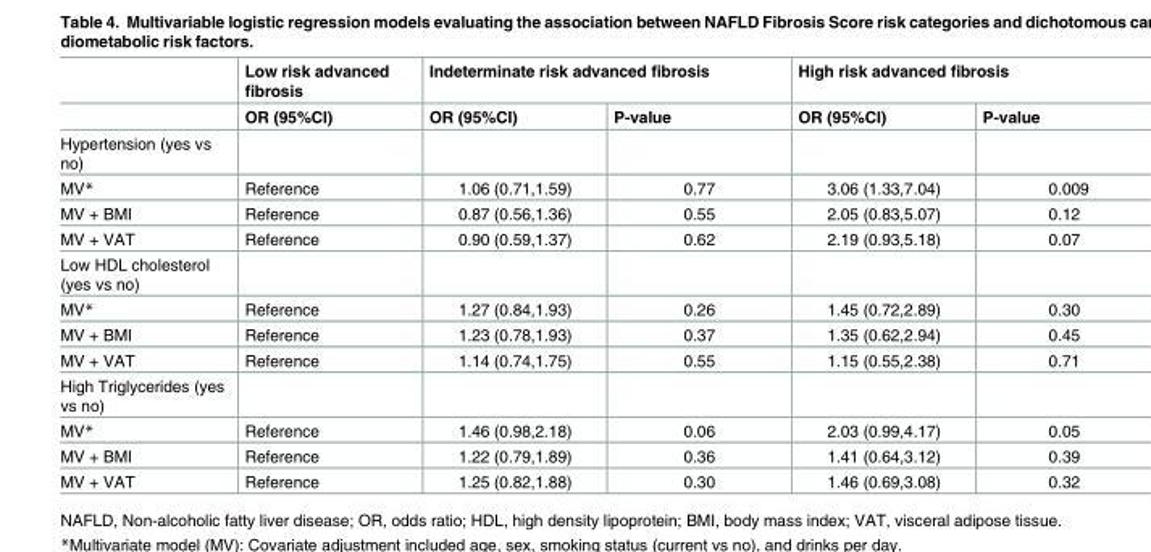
<table><thead><tr><td rowspan="2"></td><td rowspan="2">Low risk advanced fibrosis OR (95%CI)</td><td colspan="2">Indeterminate risk advanced fibrosis</td><td colspan="2">High risk advanced fibrosis</td></tr><tr><td>OR (95%CI)</td><td>P-value</td><td>OR (95%CI)</td><td>P-value</td></tr></thead><tbody><tr><td colspan="6">Hypertension (yes vs no)</td></tr><tr><td>MV*</td><td>Reference</td><td>1.06 (0.71,1.59)</td><td>0.77</td><td>3.06 (1.33,7.04)</td><td>0.009</td></tr><tr><td>MV + BMI</td><td>Reference</td><td>0.87 (0.56,1.36)</td><td>0.55</td><td>2.05 (0.83,5.07)</td><td>0.12</td></tr><tr><td>MV + VAT</td><td>Reference</td><td>0.90 (0.59,1.37)</td><td>0.62</td><td>2.19 (0.93,5.18)</td><td>0.07</td></tr><tr><td colspan="6">Low HDL cholesterol (yes vs no)</td></tr><tr><td>MV*</td><td>Reference</td><td>1.27 (0.84,1.93)</td><td>0.26</td><td>1.45 (0.72,2.89)</td><td>0.30</td></tr><tr><td>MV + BMI</td><td>Reference</td><td>1.23 (0.78,1.93)</td><td>0.37</td><td>1.35 (0.62,2.94)</td><td>0.45</td></tr><tr><td>MV + VAT</td><td>Reference</td><td>1.14 (0.74,1.75)</td><td>0.55</td><td>1.15 (0.55,2.38)</td><td>0.71</td></tr><tr><td colspan="6">High Triglycerides (yes vs no)</td></tr><tr><td>MV*</td><td>Reference</td><td>1.46 (0.98,2.18)</td><td>0.06</td><td>2.03 (0.99,4.17)</td><td>0.05</td></tr><tr><td>MV + BMI</td><td>Reference</td><td>1.22 (0.79,1.89)</td><td>0.36</td><td>1.41 (0.64,3.12)</td><td>0.39</td></tr><tr><td>MV + VAT</td><td>Reference</td><td>1.25 (0.82,1.88)</td><td>0.30</td><td>1.46 (0.69,3.08)</td><td>0.32</td></tr></tbody></table>